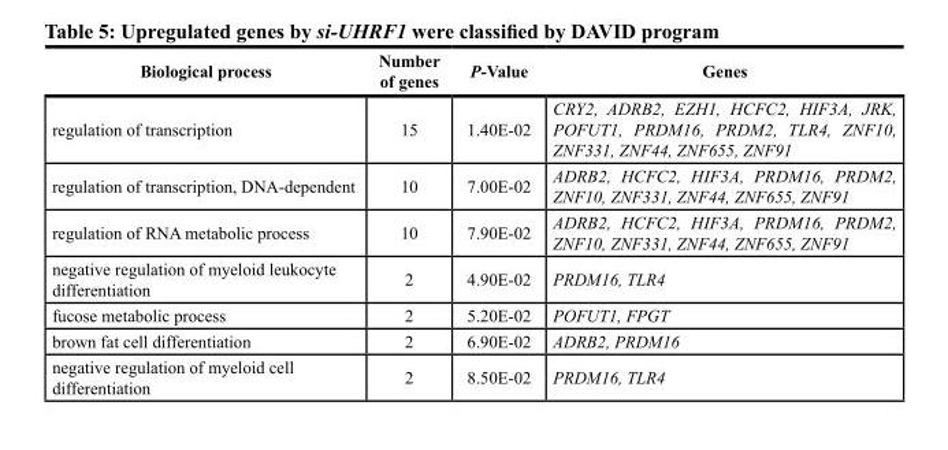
<table><thead><tr><td>Biological process</td><td>Number of genes</td><td>P-Value</td><td>Genes</td></tr></thead><tbody><tr><td>regulation of transcription</td><td>15</td><td>1.40E-02</td><td>CRY2, ADRB2, EZH1, HCFC2, HIF3A, JRK, POFUT1, PRDM16, PRDM2, TLR4, ZNF10, ZNF331, ZNF44, ZNF655, ZNF91</td></tr><tr><td>regulation of transcription, DNA-dependent</td><td>10</td><td>7.00E-02</td><td>ADRB2, HCFC2, HIF3A, PRDM16, PRDM2, ZNF10, ZNF331, ZNF44, ZNF655, ZNF91</td></tr><tr><td>regulation of RNA metabolic process</td><td>10</td><td>7.90E-02</td><td>ADRB2, HCFC2, HIF3A, PRDM16, PRDM2, ZNF10, ZNF331, ZNF44, ZNF655, ZNF91</td></tr><tr><td>negative regulation of myeloid leukocyte differentiation</td><td>2</td><td>4.90E-02</td><td>PRDM16, TLR4</td></tr><tr><td>fucose metabolic process</td><td>2</td><td>5.20E-02</td><td>POFUT1, FPGT</td></tr><tr><td>brown fat cell differentiation</td><td>2</td><td>6.90E-02</td><td>ADRB2, PRDM16</td></tr><tr><td>negative regulation of myeloid cell differentiation</td><td>2</td><td>8.50E-02</td><td>PRDM16, TLR4</td></tr></tbody></table>